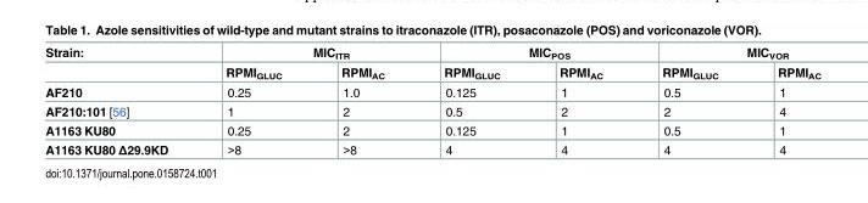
<table><thead><tr><td rowspan="2">Strain:</td><td colspan="2">MIC<sub>ITR</sub></td><td colspan="2">MIC<sub>POS</sub></td><td colspan="2">MIC<sub>VOR</sub></td></tr><tr><td>RPMI<sub>GLUC</sub></td><td>RPMI<sub>AC</sub></td><td>RPMI<sub>GLUC</sub></td><td>RPMI<sub>AC</sub></td><td>RPMI<sub>GLUC</sub></td><td>RPMI<sub>AC</sub></td></tr></thead><tbody><tr><td>AF210</td><td>0.25</td><td>1.0</td><td>0.125</td><td>1</td><td>0.5</td><td>1</td></tr><tr><td>AF210:101 [56]</td><td>1</td><td>2</td><td>0.5</td><td>2</td><td>2</td><td>4</td></tr><tr><td>A1163 KU80</td><td>0.25</td><td>2</td><td>0.125</td><td>1</td><td>0.5</td><td>1</td></tr><tr><td>A1163 KU80 Δ29.9KD</td><td>&gt;8</td><td>&gt;8</td><td>4</td><td>4</td><td>4</td><td>4</td></tr></tbody></table>